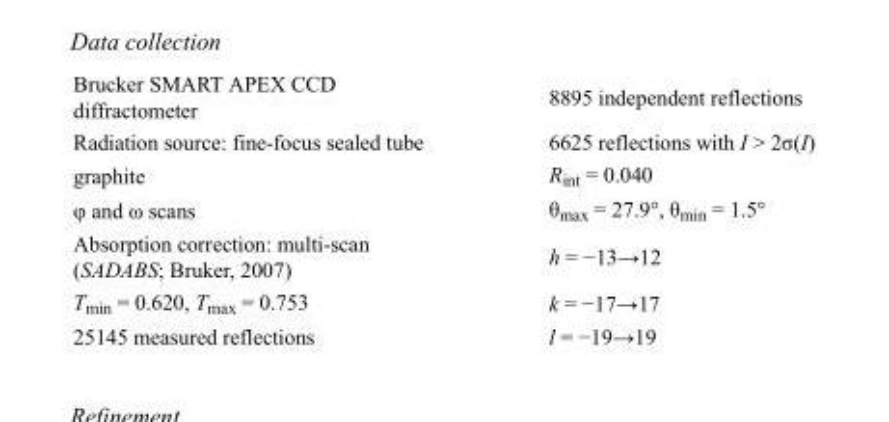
<table><tbody><tr><td>Brucker SMART APEX CCD diffractometer</td><td>8895 independent reflections</td></tr><tr><td>Radiation source: fine-focus sealed tube</td><td>6625 reflections with I &gt; 2σ(I)</td></tr><tr><td>graphite</td><td>R<sub>int</sub> = 0.040</td></tr><tr><td>φ and ω scans</td><td>θ<sub>max</sub> = 27.9°, θ<sub>min</sub> = 1.5°</td></tr><tr><td>Absorption correction: multi-scan (SADABS; Bruker, 2007)</td><td>h = −13→12</td></tr><tr><td>T<sub>min</sub> = 0.620, T<sub>max</sub> = 0.753</td><td>k = −17→17</td></tr><tr><td>25145 measured reflections</td><td>l = −19→19</td></tr></tbody></table>